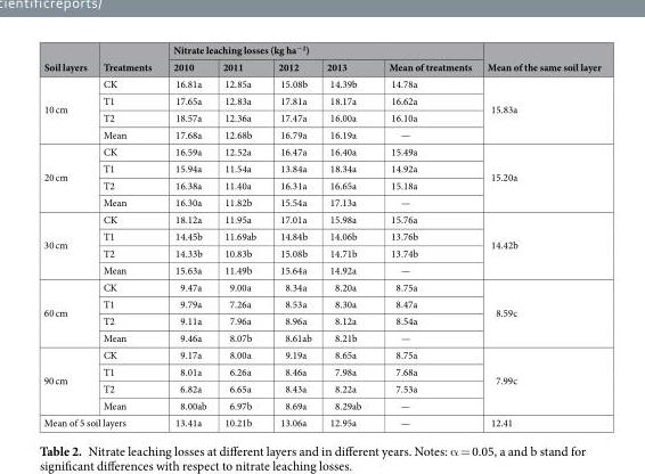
<table><thead><tr><td rowspan="2">Soil layers</td><td rowspan="2">Treatments</td><td colspan="5">Nitrate leaching losses (kg ha<sup>−2</sup>)</td><td rowspan="2">Mean of the same soil layer</td></tr><tr><td>2010</td><td>2011</td><td>2012</td><td>2013</td><td>Mean of treatments</td></tr></thead><tbody><tr><td rowspan="4">10 cm</td><td>CK</td><td>16.81a</td><td>12.85a</td><td>15.08b</td><td>14.39b</td><td>14.78a</td><td rowspan="4">15.83a</td></tr><tr><td>T1</td><td>17.65a</td><td>12.83a</td><td>17.81a</td><td>18.17a</td><td>16.62a</td></tr><tr><td>T2</td><td>18.57a</td><td>12.36a</td><td>17.47a</td><td>16.00a</td><td>16.10a</td></tr><tr><td>Mean</td><td>17.68a</td><td>12.68b</td><td>16.79a</td><td>16.19a</td><td>—</td></tr><tr><td rowspan="4">20 cm</td><td>CK</td><td>16.59a</td><td>12.52a</td><td>16.47a</td><td>16.40a</td><td>15.49a</td><td rowspan="4">15.20a</td></tr><tr><td>T1</td><td>15.94a</td><td>11.54a</td><td>13.84a</td><td>18.34a</td><td>14.92a</td></tr><tr><td>T2</td><td>16.38a</td><td>11.40a</td><td>16.31a</td><td>16.65a</td><td>15.18a</td></tr><tr><td>Mean</td><td>16.30a</td><td>11.82b</td><td>15.54a</td><td>17.13a</td><td>—</td></tr><tr><td rowspan="4">30 cm</td><td>CK</td><td>18.12a</td><td>11.95a</td><td>17.01a</td><td>15.98a</td><td>15.76a</td><td rowspan="4">14.42b</td></tr><tr><td>T1</td><td>14.45b</td><td>11.69ab</td><td>14.84b</td><td>14.06b</td><td>13.76b</td></tr><tr><td>T2</td><td>14.33b</td><td>10.83b</td><td>15.08b</td><td>14.71b</td><td>13.74b</td></tr><tr><td>Mean</td><td>15.63a</td><td>11.49b</td><td>15.64a</td><td>14.92a</td><td>—</td></tr><tr><td rowspan="4">60 cm</td><td>CK</td><td>9.47a</td><td>9.00a</td><td>8.34a</td><td>8.20a</td><td>8.75a</td><td rowspan="4">8.59c</td></tr><tr><td>T1</td><td>9.79a</td><td>7.26a</td><td>8.53a</td><td>8.30a</td><td>8.47a</td></tr><tr><td>T2</td><td>9.11a</td><td>7.96a</td><td>8.96a</td><td>8.12a</td><td>8.54a</td></tr><tr><td>Mean</td><td>9.46a</td><td>8.07b</td><td>8.61ab</td><td>8.21b</td><td>—</td></tr><tr><td rowspan="4">90 cm</td><td>CK</td><td>9.17a</td><td>8.00a</td><td>9.19a</td><td>8.65a</td><td>8.75a</td><td rowspan="4">7.99c</td></tr><tr><td>T1</td><td>8.01a</td><td>6.26a</td><td>8.46a</td><td>7.98a</td><td>7.68a</td></tr><tr><td>T2</td><td>6.82a</td><td>6.65a</td><td>8.43a</td><td>8.22a</td><td>7.53a</td></tr><tr><td>Mean</td><td>8.00ab</td><td>6.97b</td><td>8.69a</td><td>8.29ab</td><td>—</td></tr><tr><td colspan="2">Mean of 5 soil layers</td><td>13.41a</td><td>10.21b</td><td>13.06a</td><td>12.95a</td><td>—</td><td>12.41</td></tr></tbody></table>